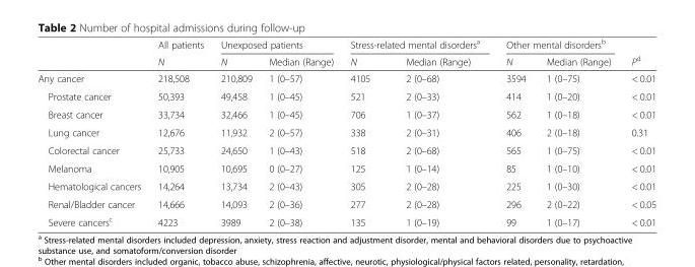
<table><thead><tr><td rowspan="2"></td><td rowspan="2">All patients N</td><td colspan="2">Unexposed patients</td><td colspan="2">Stress-related mental disorders<sup>a</sup></td><td colspan="2">Other mental disorders<sup>b</sup></td><td rowspan="2">P<sup>d</sup></td></tr><tr><td>N</td><td>Median (Range)</td><td>N</td><td>Median (Range)</td><td>N</td><td>Median (Range)</td></tr></thead><tbody><tr><td>Any cancer</td><td>218,508</td><td>210,809</td><td>1 (0–57)</td><td>4105</td><td>2 (0–68)</td><td>3594</td><td>1 (0–75)</td><td>&lt; 0.01</td></tr><tr><td>Prostate cancer</td><td>50,393</td><td>49,458</td><td>1 (0–45)</td><td>521</td><td>2 (0–33)</td><td>414</td><td>1 (0–20)</td><td>&lt; 0.01</td></tr><tr><td>Breast cancer</td><td>33,734</td><td>32,466</td><td>1 (0–45)</td><td>706</td><td>1 (0–37)</td><td>562</td><td>1 (0–18)</td><td>&lt; 0.01</td></tr><tr><td>Lung cancer</td><td>12,676</td><td>11,932</td><td>2 (0–57)</td><td>338</td><td>2 (0–31)</td><td>406</td><td>2 (0–18)</td><td>0.31</td></tr><tr><td>Colorectal cancer</td><td>25,733</td><td>24,650</td><td>1 (0–43)</td><td>518</td><td>2 (0–68)</td><td>565</td><td>1 (0–75)</td><td>&lt; 0.01</td></tr><tr><td>Melanoma</td><td>10,905</td><td>10,695</td><td>0 (0–27)</td><td>125</td><td>1 (0–14)</td><td>85</td><td>1 (0–10)</td><td>&lt; 0.01</td></tr><tr><td>Hematological cancers</td><td>14,264</td><td>13,734</td><td>2 (0–43)</td><td>305</td><td>2 (0–28)</td><td>225</td><td>1 (0–30)</td><td>&lt; 0.01</td></tr><tr><td>Renal/Bladder cancer</td><td>14,666</td><td>14,093</td><td>2 (0–36)</td><td>277</td><td>2 (0–28)</td><td>296</td><td>2 (0–22)</td><td>&lt; 0.05</td></tr><tr><td>Severe cancers<sup>c</sup></td><td>4223</td><td>3989</td><td>2 (0–38)</td><td>135</td><td>1 (0–19)</td><td>99</td><td>1 (0–17)</td><td>&lt; 0.01</td></tr></tbody></table>